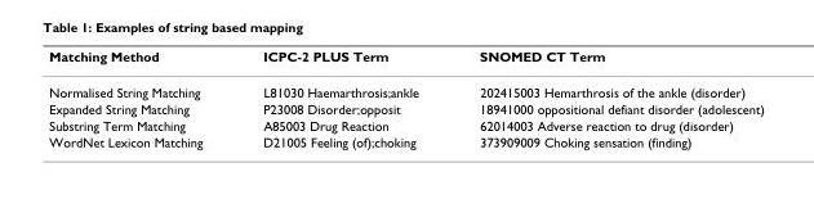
<table><thead><tr><td>Matching Method</td><td>ICPC-2 PLUS Term</td><td>SNOMED CT Term</td></tr></thead><tbody><tr><td>Normalised String Matching</td><td>L81030 Haemarthrosis;ankle</td><td>202415003 Hemarthrosis of the ankle (disorder)</td></tr><tr><td>Expanded String Matching</td><td>P23008 Disorder;opposit</td><td>18941000 oppositional defiant disorder (adolescent)</td></tr><tr><td>Substring Term Matching</td><td>A85003 Drug Reaction</td><td>62014003 Adverse reaction to drug (disorder)</td></tr><tr><td>WordNet Lexicon Matching</td><td>D21005 Feeling (of);choking</td><td>373909009 Choking sensation (finding)</td></tr></tbody></table>